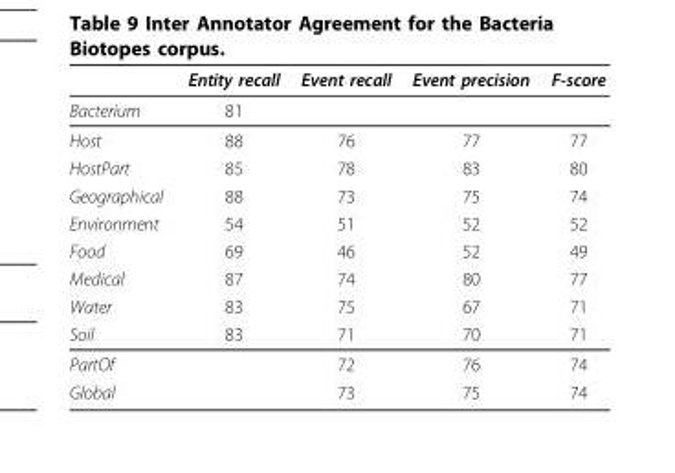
<table><thead><tr><td></td><td>Entity recall</td><td>Event recall</td><td>Event precision</td><td>F-score</td></tr></thead><tbody><tr><td>Bacterium</td><td>81</td><td></td><td></td><td></td></tr><tr><td>Host</td><td>88</td><td>76</td><td>77</td><td>77</td></tr><tr><td>HostPart</td><td>85</td><td>78</td><td>83</td><td>80</td></tr><tr><td>Geographical</td><td>88</td><td>73</td><td>75</td><td>74</td></tr><tr><td>Environment</td><td>54</td><td>51</td><td>52</td><td>52</td></tr><tr><td>Food</td><td>69</td><td>46</td><td>52</td><td>49</td></tr><tr><td>Medical</td><td>87</td><td>74</td><td>80</td><td>77</td></tr><tr><td>Water</td><td>83</td><td>75</td><td>67</td><td>71</td></tr><tr><td>Soil</td><td>83</td><td>71</td><td>70</td><td>71</td></tr><tr><td>PartOf</td><td></td><td>72</td><td>76</td><td>74</td></tr><tr><td>Global</td><td></td><td>73</td><td>75</td><td>74</td></tr></tbody></table>